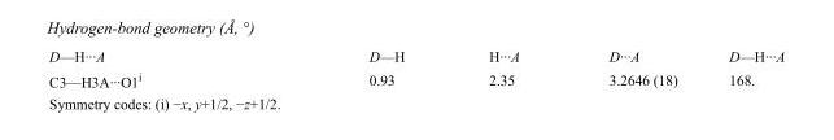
<table><tbody><tr><td>D—H···A</td><td>D—H</td><td>H···A</td><td>D···A</td><td>D—H···A</td></tr><tr><td>C3—H3A···O1<sup>i</sup></td><td>0.93</td><td>2.35</td><td>3.2646 (18)</td><td>168.</td></tr></tbody></table>